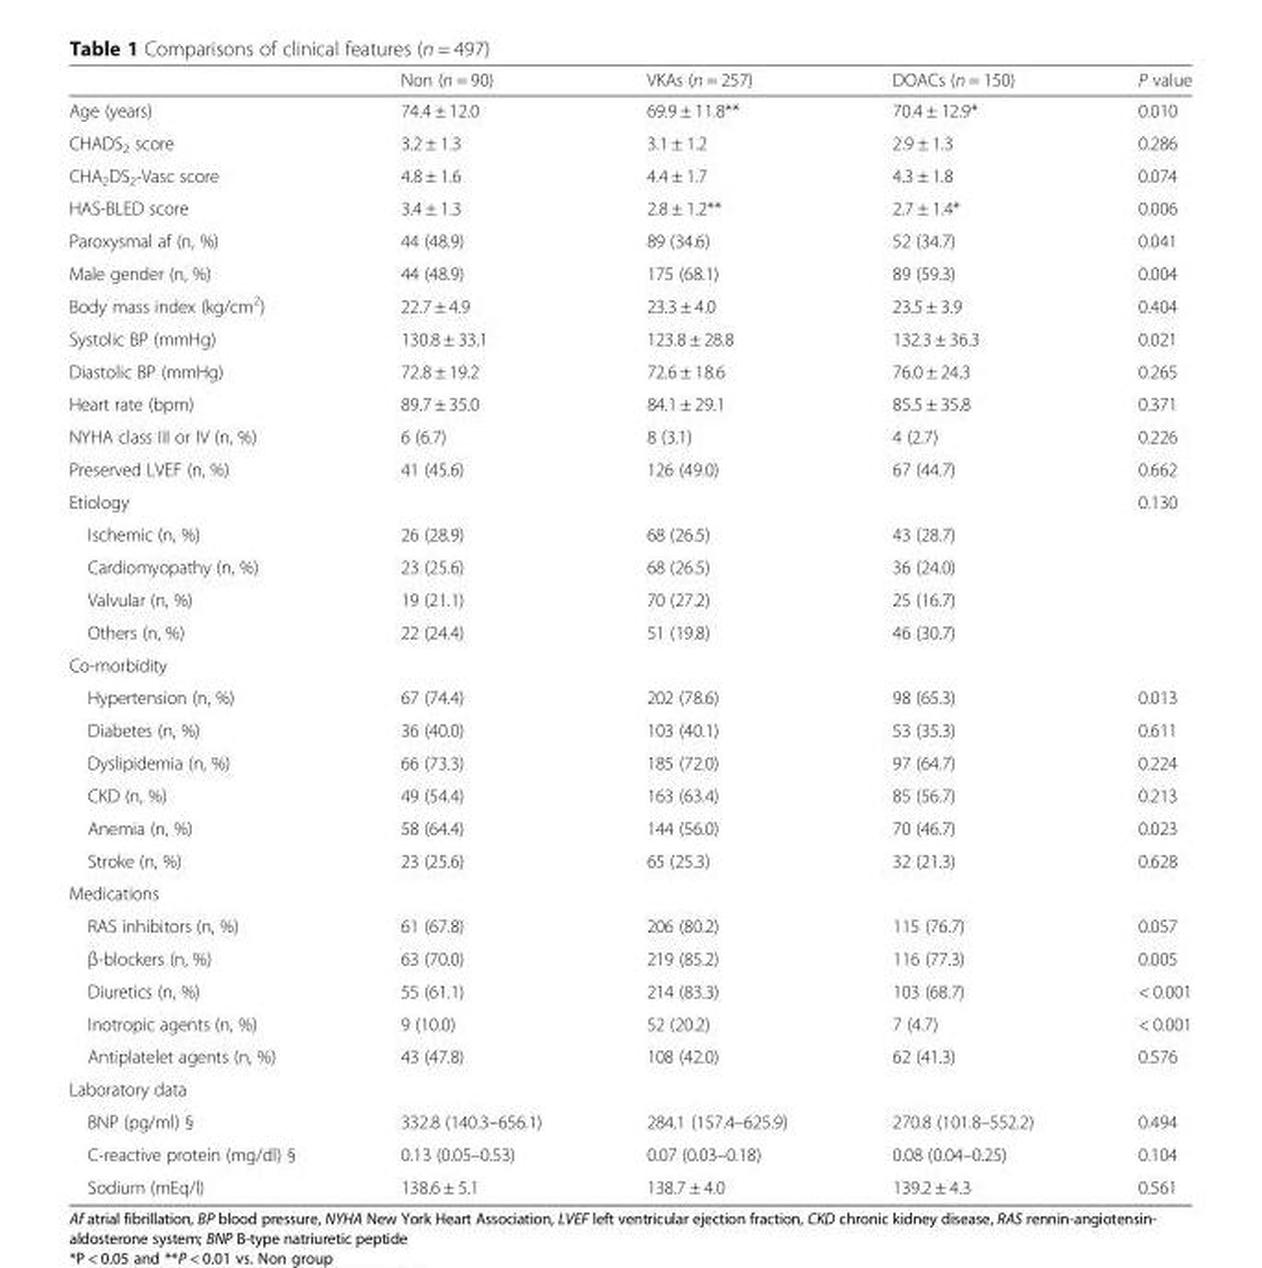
<table><thead><tr><td></td><td>Non (n = 90)</td><td>VKAs (n = 257)</td><td>DOACs (n = 150)</td><td>P value</td></tr></thead><tbody><tr><td>Age (years)</td><td>74.4 ± 12.0</td><td>69.9 ± 11.8**</td><td>70.4 ± 12.9*</td><td>0.010</td></tr><tr><td>CHADS<sub>2</sub> score</td><td>3.2 ± 1.3</td><td>3.1 ± 1.2</td><td>2.9 ± 1.3</td><td>0.286</td></tr><tr><td>CHA<sub>2</sub>DS<sub>2</sub>-Vasc score</td><td>4.8 ± 1.6</td><td>4.4 ± 1.7</td><td>4.3 ± 1.8</td><td>0.074</td></tr><tr><td>HAS-BLED score</td><td>3.4 ± 1.3</td><td>2.8 ± 1.2**</td><td>2.7 ± 1.4*</td><td>0.006</td></tr><tr><td>Paroxysmal af (n, %)</td><td>44 (48.9)</td><td>89 (34.6)</td><td>52 (34.7)</td><td>0.041</td></tr><tr><td>Male gender (n, %)</td><td>44 (48.9)</td><td>175 (68.1)</td><td>89 (59.3)</td><td>0.004</td></tr><tr><td>Body mass index (kg/cm<sup>2</sup>)</td><td>22.7 ± 4.9</td><td>23.3 ± 4.0</td><td>23.5 ± 3.9</td><td>0.404</td></tr><tr><td>Systolic BP (mmHg)</td><td>130.8 ± 33.1</td><td>123.8 ± 28.8</td><td>132.3 ± 36.3</td><td>0.021</td></tr><tr><td>Diastolic BP (mmHg)</td><td>72.8 ± 19.2</td><td>72.6 ± 18.6</td><td>76.0 ± 24.3</td><td>0.265</td></tr><tr><td>Heart rate (bpm)</td><td>89.7 ± 35.0</td><td>84.1 ± 29.1</td><td>85.5 ± 35.8</td><td>0.371</td></tr><tr><td>NYHA class III or IV (n, %)</td><td>6 (6.7)</td><td>8 (3.1)</td><td>4 (2.7)</td><td>0.226</td></tr><tr><td>Preserved LVEF (n, %)</td><td>41 (45.6)</td><td>126 (49.0)</td><td>67 (44.7)</td><td>0.662</td></tr><tr><td>Etiology</td><td></td><td></td><td></td><td>0.130</td></tr><tr><td>Ischemic (n, %)</td><td>26 (28.9)</td><td>68 (26.5)</td><td>43 (28.7)</td><td></td></tr><tr><td>Cardiomyopathy (n, %)</td><td>23 (25.6)</td><td>68 (26.5)</td><td>36 (24.0)</td><td></td></tr><tr><td>Valvular (n, %)</td><td>19 (21.1)</td><td>70 (27.2)</td><td>25 (16.7)</td><td></td></tr><tr><td>Others (n, %)</td><td>22 (24.4)</td><td>51 (19.8)</td><td>46 (30.7)</td><td></td></tr><tr><td colspan="5">Co-morbidity</td></tr><tr><td>Hypertension (n, %)</td><td>67 (74.4)</td><td>202 (78.6)</td><td>98 (65.3)</td><td>0.013</td></tr><tr><td>Diabetes (n, %)</td><td>36 (40.0)</td><td>103 (40.1)</td><td>53 (35.3)</td><td>0.611</td></tr><tr><td>Dyslipidemia (n, %)</td><td>66 (73.3)</td><td>185 (72.0)</td><td>97 (64.7)</td><td>0.224</td></tr><tr><td>CKD (n, %)</td><td>49 (54.4)</td><td>163 (63.4)</td><td>85 (56.7)</td><td>0.213</td></tr><tr><td>Anemia (n, %)</td><td>58 (64.4)</td><td>144 (56.0)</td><td>70 (46.7)</td><td>0.023</td></tr><tr><td>Stroke (n, %)</td><td>23 (25.6)</td><td>65 (25.3)</td><td>32 (21.3)</td><td>0.628</td></tr><tr><td colspan="5">Medications</td></tr><tr><td>RAS inhibitors (n, %)</td><td>61 (67.8)</td><td>206 (80.2)</td><td>115 (76.7)</td><td>0.057</td></tr><tr><td>β-blockers (n, %)</td><td>63 (70.0)</td><td>219 (85.2)</td><td>116 (77.3)</td><td>0.005</td></tr><tr><td>Diuretics (n, %)</td><td>55 (61.1)</td><td>214 (83.3)</td><td>103 (68.7)</td><td>&lt; 0.001</td></tr><tr><td>Inotropic agents (n, %)</td><td>9 (10.0)</td><td>52 (20.2)</td><td>7 (4.7)</td><td>&lt; 0.001</td></tr><tr><td>Antiplatelet agents (n, %)</td><td>43 (47.8)</td><td>108 (42.0)</td><td>62 (41.3)</td><td>0.576</td></tr><tr><td colspan="5">Laboratory data</td></tr><tr><td>BNP (pg/ml) §</td><td>332.8 (140.3–656.1)</td><td>284.1 (157.4–625.9)</td><td>270.8 (101.8–552.2)</td><td>0.494</td></tr><tr><td>C-reactive protein (mg/dl) §</td><td>0.13 (0.05–0.53)</td><td>0.07 (0.03–0.18)</td><td>0.08 (0.04–0.25)</td><td>0.104</td></tr><tr><td>Sodium (mEq/l)</td><td>138.6 ± 5.1</td><td>138.7 ± 4.0</td><td>139.2 ± 4.3</td><td>0.561</td></tr></tbody></table>